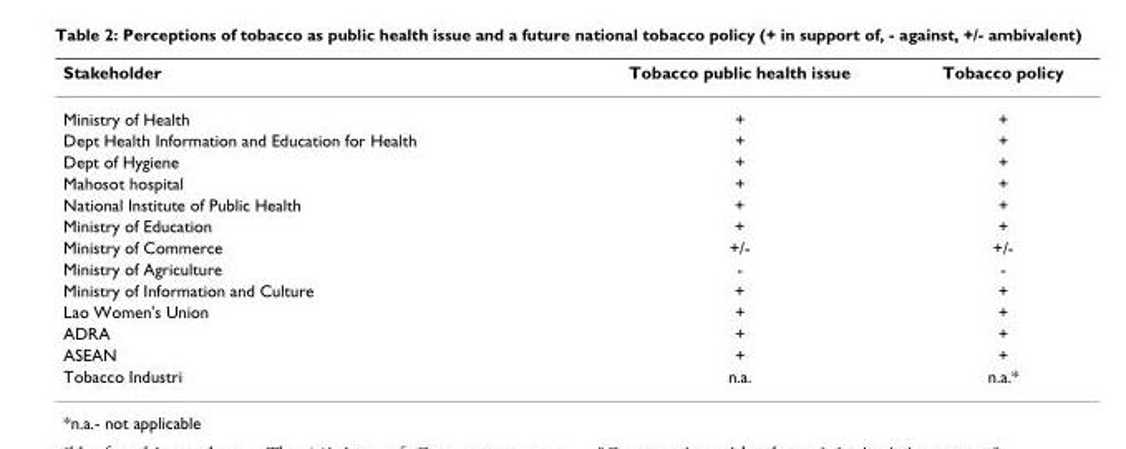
<table><thead><tr><td>Stakeholder</td><td>Tobacco public health issue</td><td>Tobacco policy</td></tr></thead><tbody><tr><td>Ministry of Health</td><td>+</td><td>+</td></tr><tr><td>Dept Health Information and Education for Health</td><td>+</td><td>+</td></tr><tr><td>Dept of Hygiene</td><td>+</td><td>+</td></tr><tr><td>Mahosot hospital</td><td>+</td><td>+</td></tr><tr><td>National Institute of Public Health</td><td>+</td><td>+</td></tr><tr><td>Ministry of Education</td><td>+</td><td>+</td></tr><tr><td>Ministry of Commerce</td><td>+/-</td><td>+/-</td></tr><tr><td>Ministry of Agriculture</td><td>-</td><td>-</td></tr><tr><td>Ministry of Information and Culture</td><td>+</td><td>+</td></tr><tr><td>Lao Women&#x27;s Union</td><td>+</td><td>+</td></tr><tr><td>ADRA</td><td>+</td><td>+</td></tr><tr><td>ASEAN</td><td>+</td><td>+</td></tr><tr><td>Tobacco Industri</td><td>n.a.</td><td>n.a.*</td></tr></tbody></table>